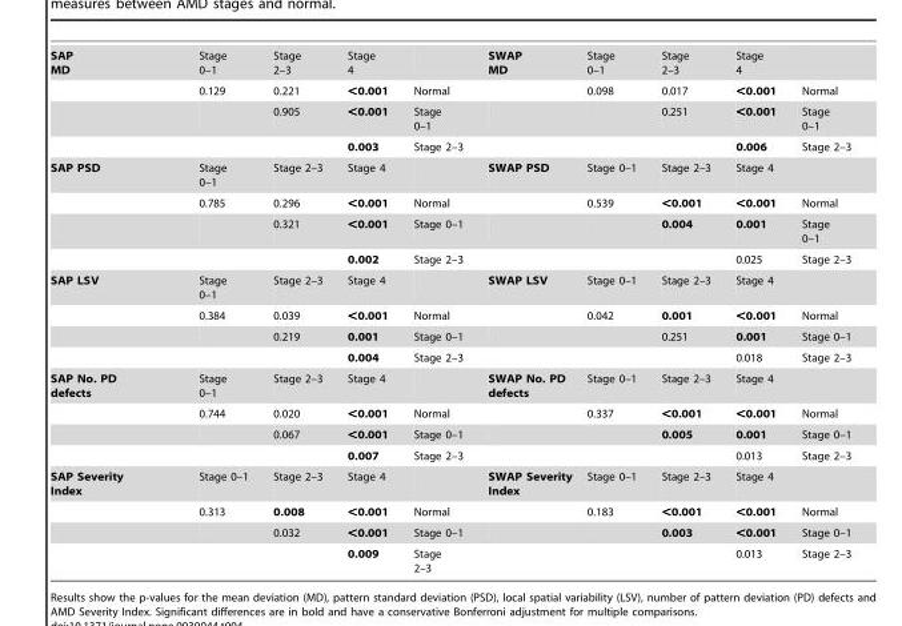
<table><tbody><tr><td rowspan="4">SAP MD</td><td>Stage 0–1</td><td>Stage 2–3</td><td>Stage 4</td><td></td><td>SWAP MD</td><td>Stage 0–1</td><td>Stage 2–3</td><td>Stage 4</td><td></td></tr><tr><td>0.129</td><td>0.221</td><td>&lt;0.001</td><td>Normal</td><td></td><td>0.098</td><td>0.017</td><td>&lt;0.001</td><td>Normal</td></tr><tr><td></td><td>0.905</td><td>&lt;0.001</td><td>Stage 0–1</td><td></td><td></td><td>0.251</td><td>&lt;0.001</td><td>Stage 0–1</td></tr><tr><td></td><td></td><td>0.003</td><td>Stage 2–3</td><td></td><td></td><td></td><td>0.006</td><td>Stage 2–3</td></tr><tr><td rowspan="4">SAP PSD</td><td>Stage 0–1</td><td>Stage 2–3</td><td>Stage 4</td><td></td><td>SWAP PSD</td><td>Stage 0–1</td><td>Stage 2–3</td><td>Stage 4</td><td></td></tr><tr><td>0.785</td><td>0.296</td><td>&lt;0.001</td><td>Normal</td><td></td><td>0.539</td><td>&lt;0.001</td><td>&lt;0.001</td><td>Normal</td></tr><tr><td></td><td>0.321</td><td>&lt;0.001</td><td>Stage 0–1</td><td></td><td></td><td>0.004</td><td>0.001</td><td>Stage 0–1</td></tr><tr><td></td><td></td><td>0.002</td><td>Stage 2–3</td><td></td><td></td><td></td><td>0.025</td><td>Stage 2–3</td></tr><tr><td rowspan="4">SAP LSV</td><td>Stage 0–1</td><td>Stage 2–3</td><td>Stage 4</td><td></td><td>SWAP LSV</td><td>Stage 0–1</td><td>Stage 2–3</td><td>Stage 4</td><td></td></tr><tr><td>0.384</td><td>0.039</td><td>&lt;0.001</td><td>Normal</td><td></td><td>0.042</td><td>0.001</td><td>&lt;0.001</td><td>Normal</td></tr><tr><td></td><td>0.219</td><td>0.001</td><td>Stage 0–1</td><td></td><td></td><td>0.251</td><td>0.001</td><td>Stage 0–1</td></tr><tr><td></td><td></td><td>0.004</td><td>Stage 2–3</td><td></td><td></td><td></td><td>0.018</td><td>Stage 2–3</td></tr><tr><td rowspan="4">SAP No. PD defects</td><td>Stage 0–1</td><td>Stage 2–3</td><td>Stage 4</td><td></td><td>SWAP No. PD defects</td><td>Stage 0–1</td><td>Stage 2–3</td><td>Stage 4</td><td></td></tr><tr><td>0.744</td><td>0.020</td><td>&lt;0.001</td><td>Normal</td><td></td><td>0.337</td><td>&lt;0.001</td><td>&lt;0.001</td><td>Normal</td></tr><tr><td></td><td>0.067</td><td>&lt;0.001</td><td>Stage 0–1</td><td></td><td></td><td>0.005</td><td>0.001</td><td>Stage 0–1</td></tr><tr><td></td><td></td><td>0.007</td><td>Stage 2–3</td><td></td><td></td><td></td><td>0.013</td><td>Stage 2–3</td></tr><tr><td rowspan="4">SAP Severity Index</td><td>Stage 0–1</td><td>Stage 2–3</td><td>Stage 4</td><td></td><td>SWAP Severity Index</td><td>Stage 0–1</td><td>Stage 2–3</td><td>Stage 4</td><td></td></tr><tr><td>0.313</td><td>0.008</td><td>&lt;0.001</td><td>Normal</td><td></td><td>0.183</td><td>&lt;0.001</td><td>&lt;0.001</td><td>Normal</td></tr><tr><td></td><td>0.032</td><td>&lt;0.001</td><td>Stage 0–1</td><td></td><td></td><td>0.003</td><td>&lt;0.001</td><td>Stage 0–1</td></tr><tr><td></td><td></td><td>0.009</td><td>Stage 2–3</td><td></td><td></td><td></td><td>0.013</td><td>Stage 2–3</td></tr></tbody></table>